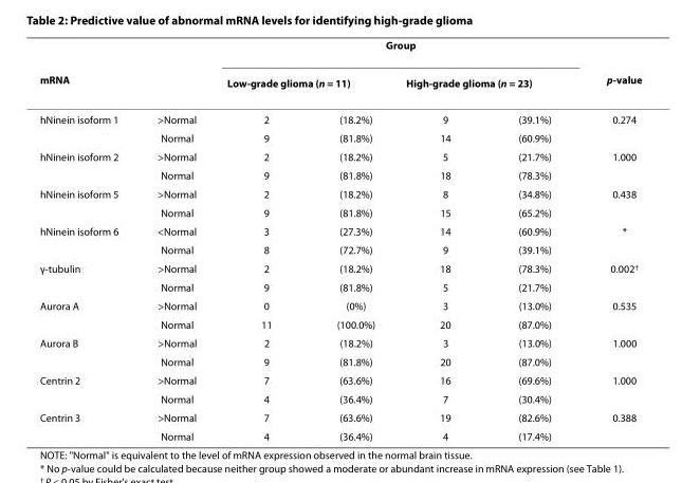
<table><thead><tr><td></td><td></td><td colspan="4">Group</td><td rowspan="3">p-value 0.274</td></tr><tr><td colspan="2">mRNA</td><td colspan="2">Low-grade glioma (n = 11)</td><td colspan="2">High-grade glioma (n = 23)</td></tr><tr><td>hNinein isoform 1</td><td>&gt;Normal</td><td>2</td><td>(18.2%)</td><td>9</td><td>(39.1%)</td></tr></thead><tbody><tr><td></td><td>Normal</td><td>9</td><td>(81.8%)</td><td>14</td><td>(60.9%)</td><td></td></tr><tr><td rowspan="2">hNinein isoform 2</td><td>&gt;Normal</td><td>2</td><td>(18.2%)</td><td>5</td><td>(21.7%)</td><td>1.000</td></tr><tr><td>Normal</td><td>9</td><td>(81.8%)</td><td>18</td><td>(78.3%)</td><td></td></tr><tr><td rowspan="2">hNinein isoform 5</td><td>&gt;Normal</td><td>2</td><td>(18.2%)</td><td>8</td><td>(34.8%)</td><td>0.438</td></tr><tr><td>Normal</td><td>9</td><td>(81.8%)</td><td>15</td><td>(65.2%)</td><td></td></tr><tr><td rowspan="2">hNinein isoform 6</td><td>&lt;Normal</td><td>3</td><td>(27.3%)</td><td>14</td><td>(60.9%)</td><td>*</td></tr><tr><td>Normal</td><td>8</td><td>(72.7%)</td><td>9</td><td>(39.1%)</td><td></td></tr><tr><td rowspan="2">γ-tubulin</td><td>&gt;Normal</td><td>2</td><td>(18.2%)</td><td>18</td><td>(78.3%)</td><td>0.002<sup>†</sup></td></tr><tr><td>Normal</td><td>9</td><td>(81.8%)</td><td>5</td><td>(21.7%)</td><td></td></tr><tr><td rowspan="2">Aurora A</td><td>&gt;Normal</td><td>0</td><td>(0%)</td><td>3</td><td>(13.0%)</td><td>0.535</td></tr><tr><td>Normal</td><td>11</td><td>(100.0%)</td><td>20</td><td>(87.0%)</td><td></td></tr><tr><td rowspan="2">Aurora B</td><td>&gt;Normal</td><td>2</td><td>(18.2%)</td><td>3</td><td>(13.0%)</td><td>1.000</td></tr><tr><td>Normal</td><td>9</td><td>(81.8%)</td><td>20</td><td>(87.0%)</td><td></td></tr><tr><td rowspan="2">Centrin 2</td><td>&gt;Normal</td><td>7</td><td>(63.6%)</td><td>16</td><td>(69.6%)</td><td>1.000</td></tr><tr><td>Normal</td><td>4</td><td>(36.4%)</td><td>7</td><td>(30.4%)</td><td></td></tr><tr><td rowspan="2">Centrin 3</td><td>&gt;Normal</td><td>7</td><td>(63.6%)</td><td>19</td><td>(82.6%)</td><td>0.388</td></tr><tr><td>Normal</td><td>4</td><td>(36.4%)</td><td>4</td><td>(17.4%)</td><td></td></tr></tbody></table>